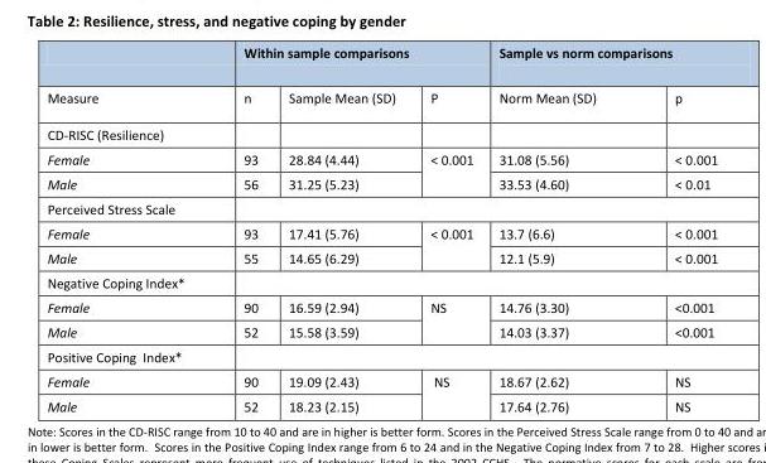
<table><thead><tr><td rowspan="2">Measure</td><td colspan="3">Within sample comparisons</td><td colspan="2">Sample vs norm comparisons</td></tr><tr><td>n</td><td>Sample Mean (SD)</td><td>P</td><td>Norm Mean (SD)</td><td>p</td></tr></thead><tbody><tr><td colspan="6">CD-RISC (Resilience)</td></tr><tr><td>Female</td><td>93</td><td>28.84 (4.44)</td><td rowspan="2">&lt; 0.001</td><td>31.08 (5.56)</td><td>&lt; 0.001</td></tr><tr><td>Male</td><td>56</td><td>31.25 (5.23)</td><td>33.53 (4.60)</td><td>&lt; 0.01</td></tr><tr><td colspan="6">Perceived Stress Scale</td></tr><tr><td>Female</td><td>93</td><td>17.41 (5.76)</td><td rowspan="2">&lt; 0.001</td><td>13.7 (6.6)</td><td>&lt; 0.001</td></tr><tr><td>Male</td><td>55</td><td>14.65 (6.29)</td><td>12.1 (5.9)</td><td>&lt; 0.001</td></tr><tr><td colspan="6">Negative Coping Index*</td></tr><tr><td>Female</td><td>90</td><td>16.59 (2.94)</td><td rowspan="2">NS</td><td>14.76 (3.30)</td><td>&lt;0.001</td></tr><tr><td>Male</td><td>52</td><td>15.58 (3.59)</td><td>14.03 (3.37)</td><td>&lt;0.001</td></tr><tr><td colspan="6">Positive Coping Index*</td></tr><tr><td>Female</td><td>90</td><td>19.09 (2.43)</td><td rowspan="2">NS</td><td>18.67 (2.62)</td><td>NS</td></tr><tr><td>Male</td><td>52</td><td>18.23 (2.15)</td><td>17.64 (2.76)</td><td>NS</td></tr></tbody></table>